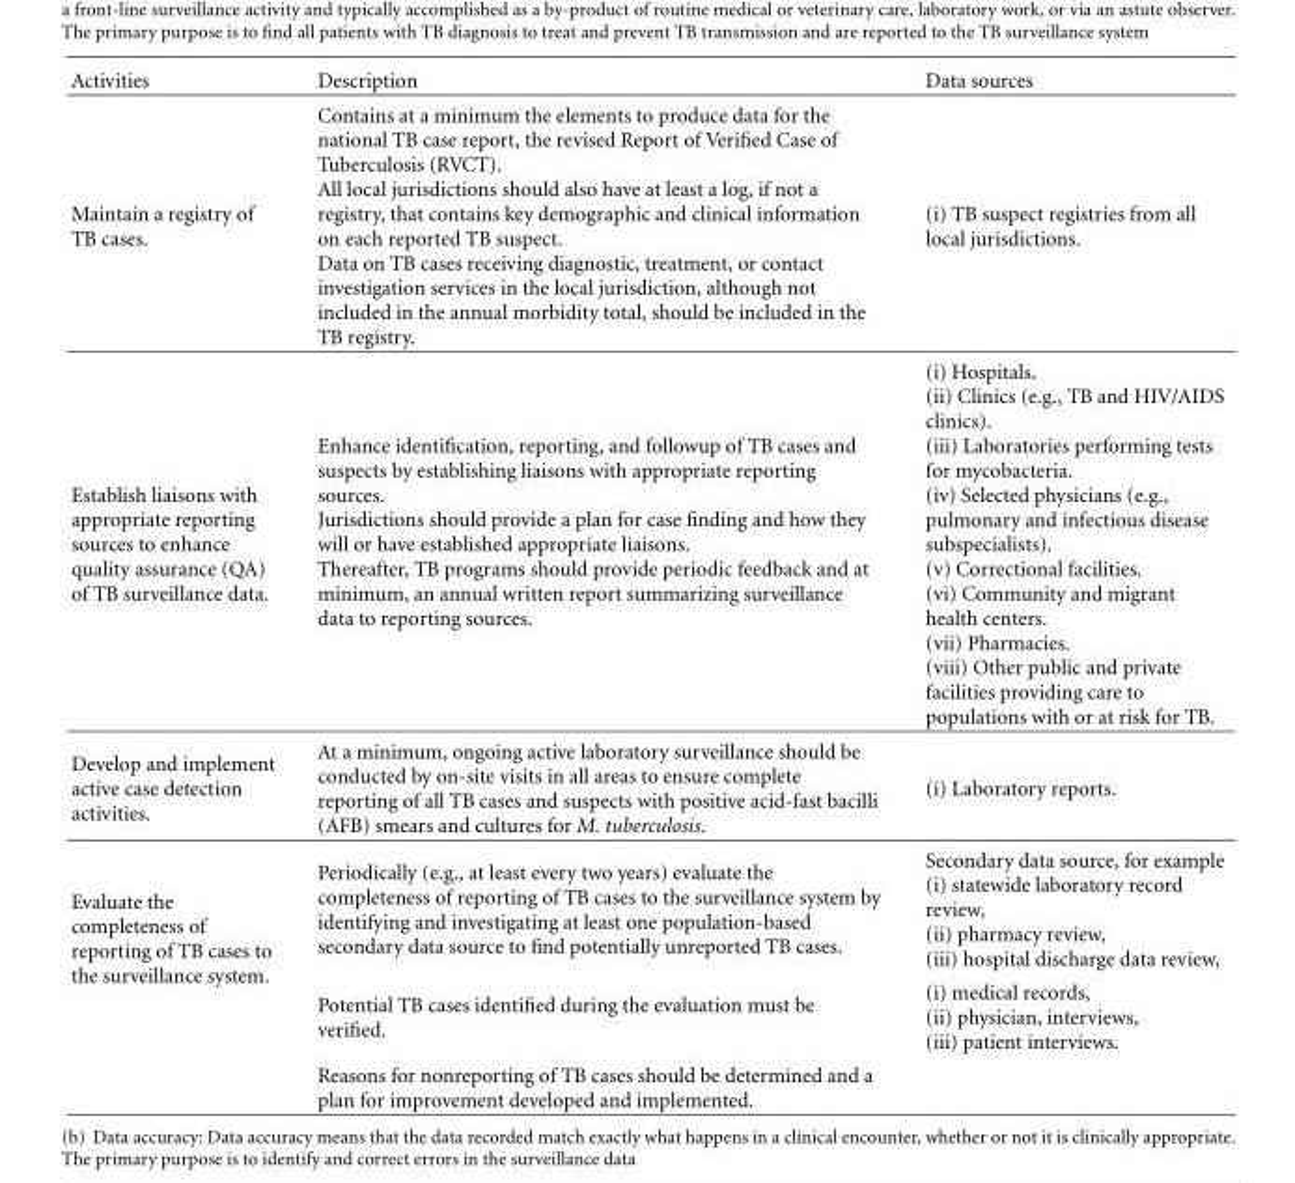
<table><thead><tr><td>Activities</td><td>Description</td><td>Data sources</td></tr></thead><tbody><tr><td>Maintain a registry of TB cases.</td><td>Contains at a minimum the elements to produce data for the national TB case report, the revised Report of Verified Case of Tuberculosis (RVCT). All local jurisdictions should also have at least a log, if not a registry, that contains key demographic and clinical information on each reported TB suspect. Data on TB cases receiving diagnostic, treatment, or contact investigation services in the local jurisdiction, although not included in the annual morbidity total, should be included in the TB registry.</td><td>(i) TB suspect registries from all local jurisdictions.</td></tr><tr><td>Establish liaisons with appropriate reporting sources to enhance quality assurance (QA) of TB surveillance data.</td><td>Enhance identification, reporting, and followup of TB cases and suspects by establishing liaisons with appropriate reporting sources. Jurisdictions should provide a plan for case finding and how they will or have established appropriate liaisons. Thereafter, TB programs should provide periodic feedback and at minimum, an annual written report summarizing surveillance data to reporting sources.</td><td>(i) Hospitals. (ii) Clinics (e.g., TB and HIV/AIDS clinics). (iii) Laboratories performing tests for mycobacteria. (iv) Selected physicians (e.g., pulmonary and infectious disease subspecialists). (v) Correctional facilities. (vi) Community and migrant health centers. (vii) Pharmacies. (viii) Other public and private facilities providing care to populations with or at risk for TB.</td></tr><tr><td>Develop and implement active case detection activities.</td><td>At a minimum, ongoing active laboratory surveillance should be conducted by on-site visits in all areas to ensure complete reporting of all TB cases and suspects with positive acid-fast bacilli (AFB) smears and cultures for M. tuberculosis.</td><td>(i) Laboratory reports.</td></tr><tr><td rowspan="3">Evaluate the completeness of reporting of TB cases to the surveillance system.</td><td>Periodically (e.g., at least every two years) evaluate the completeness of reporting of TB cases to the surveillance system by identifying and investigating at least one population-based secondary data source to find potentially unreported TB cases.</td><td>Secondary data source, for example (i) statewide laboratory record review, (ii) pharmacy review, (iii) hospital discharge data review,</td></tr><tr><td>Potential TB cases identified during the evaluation must be verified.</td><td>(i) medical records, (ii) physician, interviews, (iii) patient interviews.</td></tr><tr><td>Reasons for nonreporting of TB cases should be determined and a plan for improvement developed and implemented.</td><td></td></tr></tbody></table>